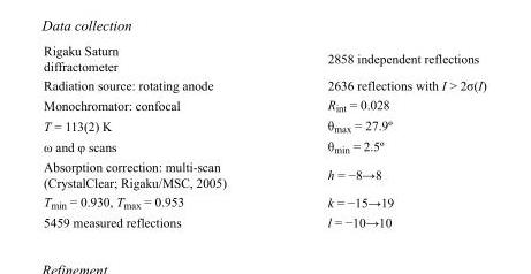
<table><tbody><tr><td>Rigaku Saturn diffractometer</td><td>2858 independent reflections</td></tr><tr><td>Radiation source: rotating anode</td><td>2636 reflections with I &gt; 2σ(I)</td></tr><tr><td>Monochromator: confocal</td><td>R<sub>int</sub> = 0.028</td></tr><tr><td>T = 113(2) K</td><td>θ<sub>max</sub> = 27.9º</td></tr><tr><td>ω and φ scans</td><td>θ<sub>min</sub> = 2.5º</td></tr><tr><td>Absorption correction: multi-scan (CrystalClear; Rigaku/MSC, 2005)</td><td>h = −8→8</td></tr><tr><td>T<sub>min</sub> = 0.930, T<sub>max</sub> = 0.953</td><td>k = −15→19</td></tr><tr><td>5459 measured reflections</td><td>l = −10→10</td></tr></tbody></table>